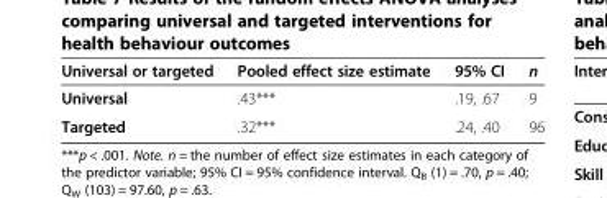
<table><thead><tr><td>Universal or targeted</td><td>Pooled effect size estimate</td><td>95% CI</td><td>n</td></tr></thead><tbody><tr><td>Universal</td><td>.43***</td><td>.19, .67</td><td>9</td></tr><tr><td>Targeted</td><td>.32***</td><td>.24, .40</td><td>96</td></tr></tbody></table>